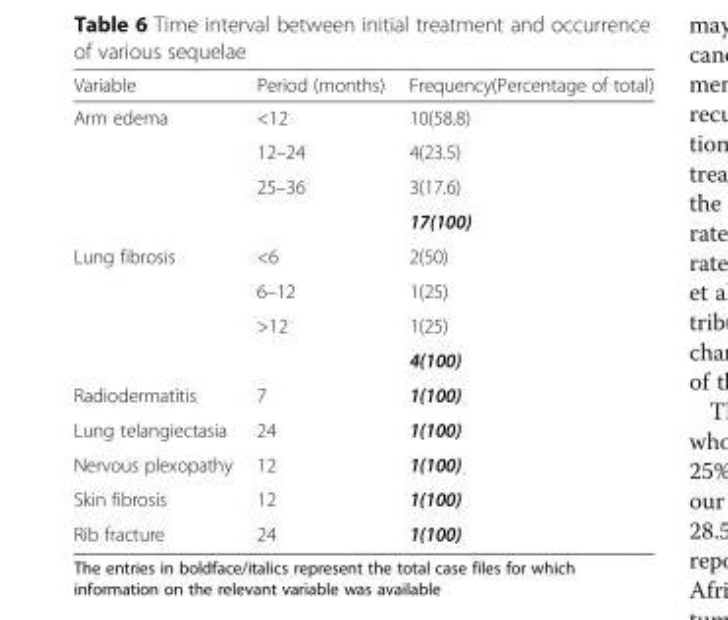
<table><thead><tr><td>Variable</td><td>Period (months)</td><td>Frequency(Percentage of total)</td></tr></thead><tbody><tr><td rowspan="4">Arm edema</td><td>&lt;12</td><td>10(58.8)</td></tr><tr><td>12–24</td><td>4(23.5)</td></tr><tr><td>25–36</td><td>3(17.6)</td></tr><tr><td></td><td>17(100)</td></tr><tr><td rowspan="4">Lung fibrosis</td><td>&lt;6</td><td>2(50)</td></tr><tr><td>6–12</td><td>1(25)</td></tr><tr><td>&gt;12</td><td>1(25)</td></tr><tr><td></td><td>4(100)</td></tr><tr><td>Radiodermatitis</td><td>7</td><td>1(100)</td></tr><tr><td>Lung telangiectasia</td><td>24</td><td>1(100)</td></tr><tr><td>Nervous plexopathy</td><td>12</td><td>1(100)</td></tr><tr><td>Skin fibrosis</td><td>12</td><td>1(100)</td></tr><tr><td>Rib fracture</td><td>24</td><td>1(100)</td></tr></tbody></table>